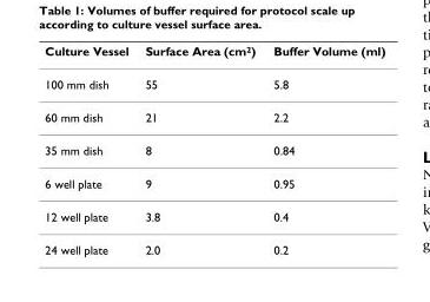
<table><thead><tr><td>Culture Vessel</td><td>Surface Area (cm<sup>2</sup>)</td><td>Buffer Volume (ml)</td></tr></thead><tbody><tr><td>100 mm dish</td><td>55</td><td>5.8</td></tr><tr><td>60 mm dish</td><td>21</td><td>2.2</td></tr><tr><td>35 mm dish</td><td>8</td><td>0.84</td></tr><tr><td>6 well plate</td><td>9</td><td>0.95</td></tr><tr><td>12 well plate</td><td>3.8</td><td>0.4</td></tr><tr><td>24 well plate</td><td>2.0</td><td>0.2</td></tr></tbody></table>